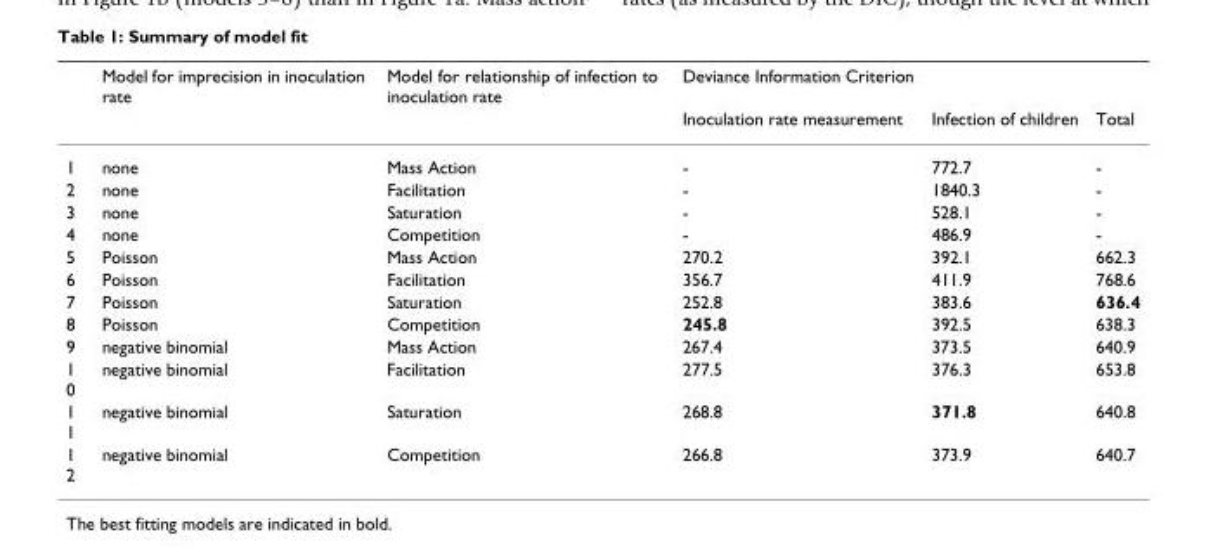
<table><thead><tr><td rowspan="2"></td><td rowspan="2">Model for imprecision in inoculation rate</td><td rowspan="2">Model for relationship of infection to inoculation rate</td><td colspan="3">Deviance Information Criterion</td></tr><tr><td>Inoculation rate measurement</td><td>Infection of children</td><td>Total</td></tr></thead><tbody><tr><td>1</td><td>none</td><td>Mass Action</td><td>-</td><td>772.7</td><td>-</td></tr><tr><td>2</td><td>none</td><td>Facilitation</td><td>-</td><td>1840.3</td><td>-</td></tr><tr><td>3</td><td>none</td><td>Saturation</td><td>-</td><td>528.1</td><td>-</td></tr><tr><td>4</td><td>none</td><td>Competition</td><td>-</td><td>486.9</td><td>-</td></tr><tr><td>5</td><td>Poisson</td><td>Mass Action</td><td>270.2</td><td>392.1</td><td>662.3</td></tr><tr><td>6</td><td>Poisson</td><td>Facilitation</td><td>356.7</td><td>411.9</td><td>768.6</td></tr><tr><td>7</td><td>Poisson</td><td>Saturation</td><td>252.8</td><td>383.6</td><td>636.4</td></tr><tr><td>8</td><td>Poisson</td><td>Competition</td><td>245.8</td><td>392.5</td><td>638.3</td></tr><tr><td>9</td><td>negative binomial</td><td>Mass Action</td><td>267.4</td><td>373.5</td><td>640.9</td></tr><tr><td>1 0</td><td>negative binomial</td><td>Facilitation</td><td>277.5</td><td>376.3</td><td>653.8</td></tr><tr><td>1 1</td><td>negative binomial</td><td>Saturation</td><td>268.8</td><td>371.8</td><td>640.8</td></tr><tr><td>1 2</td><td>negative binomial</td><td>Competition</td><td>266.8</td><td>373.9</td><td>640.7</td></tr></tbody></table>